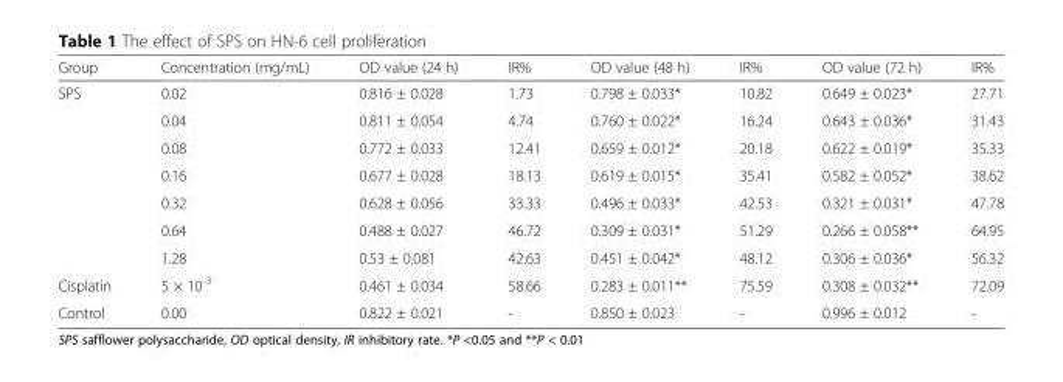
<table><thead><tr><td>Group</td><td>Concentration (mg/mL)</td><td>OD value (24 h)</td><td>IR%</td><td>OD value (48 h)</td><td>IR%</td><td>OD value (72 h)</td><td>IR%</td></tr></thead><tbody><tr><td rowspan="7">SPS</td><td>0.02</td><td>0.816 ± 0.028</td><td>1.73</td><td>0.798 ± 0.033*</td><td>10.82</td><td>0.649 ± 0.023*</td><td>27.71</td></tr><tr><td>0.04</td><td>0.811 ± 0.054</td><td>4.74</td><td>0.760 ± 0.022*</td><td>16.24</td><td>0.643 ± 0.036*</td><td>31.43</td></tr><tr><td>0.08</td><td>0.772 ± 0.033</td><td>12.41</td><td>0.659 ± 0.012*</td><td>20.18</td><td>0.622 ± 0.019*</td><td>35.33</td></tr><tr><td>0.16</td><td>0.677 ± 0.028</td><td>18.13</td><td>0.619 ± 0.015*</td><td>35.41</td><td>0.582 ± 0.052*</td><td>38.62</td></tr><tr><td>0.32</td><td>0.628 ± 0.056</td><td>33.33</td><td>0.496 ± 0.033*</td><td>42.53</td><td>0.321 ± 0.031*</td><td>47.78</td></tr><tr><td>0.64</td><td>0.488 ± 0.027</td><td>46.72</td><td>0.309 ± 0.031*</td><td>51.29</td><td>0.266 ± 0.058**</td><td>64.95</td></tr><tr><td>1.28</td><td>0.53 ± 0.081</td><td>42.63</td><td>0.451 ± 0.042*</td><td>48.12</td><td>0.306 ± 0.036*</td><td>56.32</td></tr><tr><td>Cisplatin</td><td>5 × 10<sup>-3</sup></td><td>0.461 ± 0.034</td><td>58.66</td><td>0.283 ± 0.011**</td><td>75.59</td><td>0.308 ± 0.032**</td><td>72.09</td></tr><tr><td>Control</td><td>0.00</td><td>0.822 ± 0.021</td><td>-</td><td>0.850 ± 0.023</td><td>-</td><td>0.996 ± 0.012</td><td>-</td></tr></tbody></table>